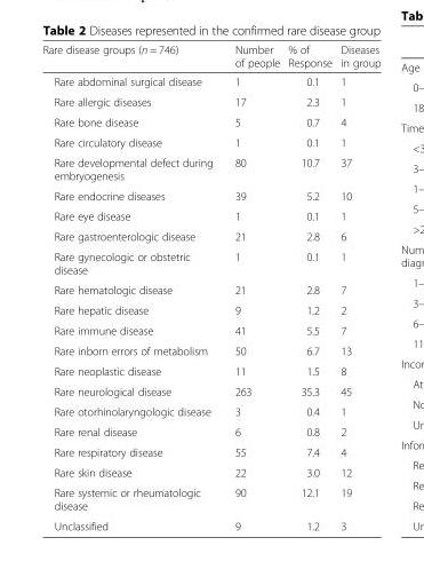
<table><thead><tr><td>Rare disease groups (n = 746)</td><td>Number of people</td><td>% of Response</td><td>Diseases in group</td></tr></thead><tbody><tr><td>Rare abdominal surgical disease</td><td>1</td><td>0.1</td><td>1</td></tr><tr><td>Rare allergic diseases</td><td>17</td><td>2.3</td><td>1</td></tr><tr><td>Rare bone disease</td><td>5</td><td>0.7</td><td>4</td></tr><tr><td>Rare circulatory disease</td><td>1</td><td>0.1</td><td>1</td></tr><tr><td>Rare developmental defect during embryogenesis</td><td>80</td><td>10.7</td><td>37</td></tr><tr><td>Rare endocrine diseases</td><td>39</td><td>5.2</td><td>10</td></tr><tr><td>Rare eye disease</td><td>1</td><td>0.1</td><td>1</td></tr><tr><td>Rare gastroenterologic disease</td><td>21</td><td>2.8</td><td>6</td></tr><tr><td>Rare gynecologic or obstetric disease</td><td>1</td><td>0.1</td><td>1</td></tr><tr><td>Rare hematologic disease</td><td>21</td><td>2.8</td><td>7</td></tr><tr><td>Rare hepatic disease</td><td>9</td><td>1.2</td><td>2</td></tr><tr><td>Rare immune disease</td><td>41</td><td>5.5</td><td>7</td></tr><tr><td>Rare inborn errors of metabolism</td><td>50</td><td>6.7</td><td>13</td></tr><tr><td>Rare neoplastic disease</td><td>11</td><td>1.5</td><td>8</td></tr><tr><td>Rare neurological disease</td><td>263</td><td>35.3</td><td>45</td></tr><tr><td>Rare otorhinolaryngologic disease</td><td>3</td><td>0.4</td><td>1</td></tr><tr><td>Rare renal disease</td><td>6</td><td>0.8</td><td>2</td></tr><tr><td>Rare respiratory disease</td><td>55</td><td>7.4</td><td>4</td></tr><tr><td>Rare skin disease</td><td>22</td><td>3.0</td><td>12</td></tr><tr><td>Rare systemic or rheumatologic disease</td><td>90</td><td>12.1</td><td>19</td></tr><tr><td>Unclassified</td><td>9</td><td>1.2</td><td>3</td></tr></tbody></table>